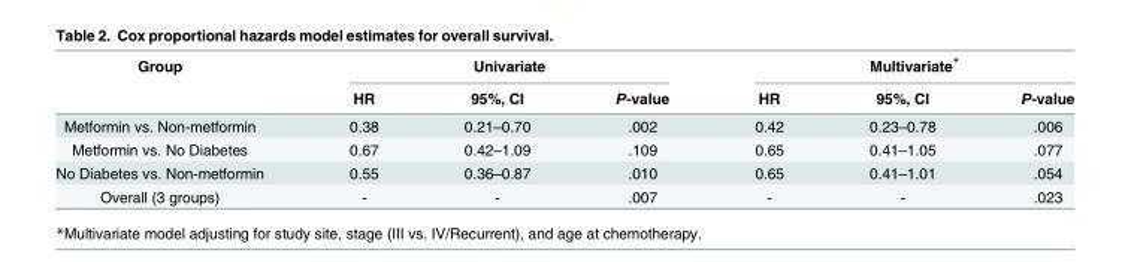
<table><thead><tr><td rowspan="2">Group</td><td colspan="3">Univariate</td><td colspan="3">Multivariate*</td></tr><tr><td>HR</td><td>95%, CI</td><td>P-value</td><td>HR</td><td>95%, CI</td><td>P-value</td></tr></thead><tbody><tr><td>Metformin vs. Non-metformin</td><td>0.38</td><td>0.21–0.70</td><td>.002</td><td>0.42</td><td>0.23–0.78</td><td>.006</td></tr><tr><td>Metformin vs. No Diabetes</td><td>0.67</td><td>0.42–1.09</td><td>.109</td><td>0.65</td><td>0.41–1.05</td><td>.077</td></tr><tr><td>No Diabetes vs. Non-metformin</td><td>0.55</td><td>0.36–0.87</td><td>.010</td><td>0.65</td><td>0.41–1.01</td><td>.054</td></tr><tr><td>Overall (3 groups)</td><td>-</td><td>-</td><td>.007</td><td>-</td><td>-</td><td>.023</td></tr></tbody></table>